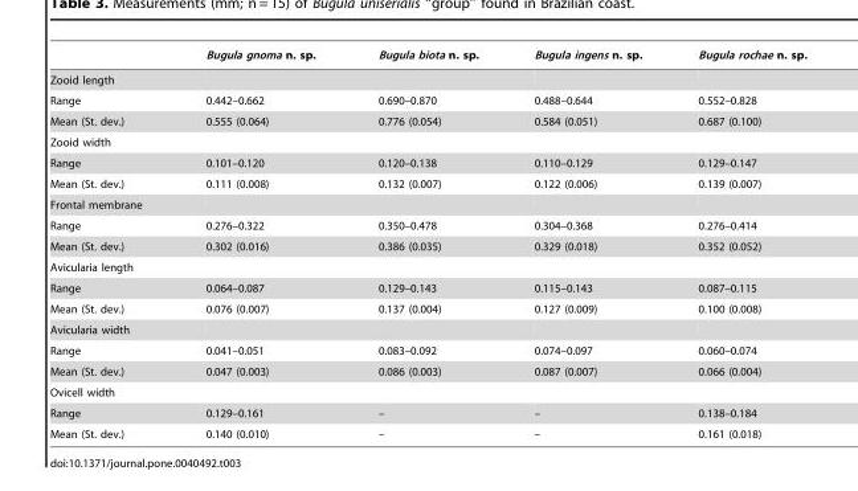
<table><thead><tr><td></td><td>Bugula gnoma n. sp.</td><td>Bugula biota n. sp.</td><td>Bugula ingens n. sp.</td><td>Bugula rochae n. sp.</td></tr></thead><tbody><tr><td colspan="5">Zooid length</td></tr><tr><td>Range</td><td>0.442–0.662</td><td>0.690–0.870</td><td>0.488–0.644</td><td>0.552–0.828</td></tr><tr><td>Mean (St. dev.)</td><td>0.555 (0.064)</td><td>0.776 (0.054)</td><td>0.584 (0.051)</td><td>0.687 (0.100)</td></tr><tr><td colspan="5">Zooid width</td></tr><tr><td>Range</td><td>0.101–0.120</td><td>0.120–0.138</td><td>0.110–0.129</td><td>0.129–0.147</td></tr><tr><td>Mean (St. dev.)</td><td>0.111 (0.008)</td><td>0.132 (0.007)</td><td>0.122 (0.006)</td><td>0.139 (0.007)</td></tr><tr><td colspan="5">Frontal membrane</td></tr><tr><td>Range</td><td>0.276–0.322</td><td>0.350–0.478</td><td>0.304–0.368</td><td>0.276–0.414</td></tr><tr><td>Mean (St. dev.)</td><td>0.302 (0.016)</td><td>0.386 (0.035)</td><td>0.329 (0.018)</td><td>0.352 (0.052)</td></tr><tr><td colspan="5">Avicularia length</td></tr><tr><td>Range</td><td>0.064–0.087</td><td>0.129–0.143</td><td>0.115–0.143</td><td>0.087–0.115</td></tr><tr><td>Mean (St. dev.)</td><td>0.076 (0.007)</td><td>0.137 (0.004)</td><td>0.127 (0.009)</td><td>0.100 (0.008)</td></tr><tr><td colspan="5">Avicularia width</td></tr><tr><td>Range</td><td>0.041–0.051</td><td>0.083–0.092</td><td>0.074–0.097</td><td>0.060–0.074</td></tr><tr><td>Mean (St. dev.)</td><td>0.047 (0.003)</td><td>0.086 (0.003)</td><td>0.087 (0.007)</td><td>0.066 (0.004)</td></tr><tr><td colspan="5">Ovicell width</td></tr><tr><td>Range</td><td>0.129–0.161</td><td>–</td><td>–</td><td>0.138–0.184</td></tr><tr><td>Mean (St. dev.)</td><td>0.140 (0.010)</td><td>–</td><td>–</td><td>0.161 (0.018)</td></tr></tbody></table>